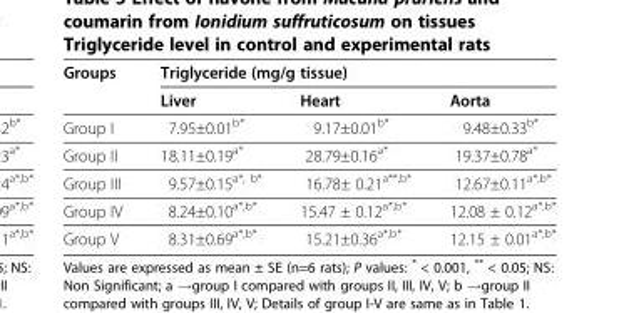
<table><thead><tr><td rowspan="2">Groups</td><td colspan="3">Triglyceride (mg/g tissue)</td></tr><tr><td>Liver</td><td>Heart</td><td>Aorta</td></tr></thead><tbody><tr><td>Group I</td><td>7.95±0.01<sup>b*</sup></td><td>9.17±0.01<sup>b*</sup></td><td>9.48±0.33<sup>b*</sup></td></tr><tr><td>Group II</td><td>18.11±0.19<sup>a*</sup></td><td>28.79±0.16<sup>a*</sup></td><td>19.37±0.78<sup>a*</sup></td></tr><tr><td>Group III</td><td>9.57±0.15<sup>a*, b*</sup></td><td>16.78± 0.21<sup>a**,b*</sup></td><td>12.67±0.11<sup>a*,b*</sup></td></tr><tr><td>Group IV</td><td>8.24±0.10<sup>a*,b*</sup></td><td>15.47 ± 0.12<sup>a*,b*</sup></td><td>12.08 ± 0.12<sup>a*,b*</sup></td></tr><tr><td>Group V</td><td>8.31±0.69<sup>a*,b*</sup></td><td>15.21±0.36<sup>a*,b*</sup></td><td>12.15 ± 0.01<sup>a*,b*</sup></td></tr></tbody></table>